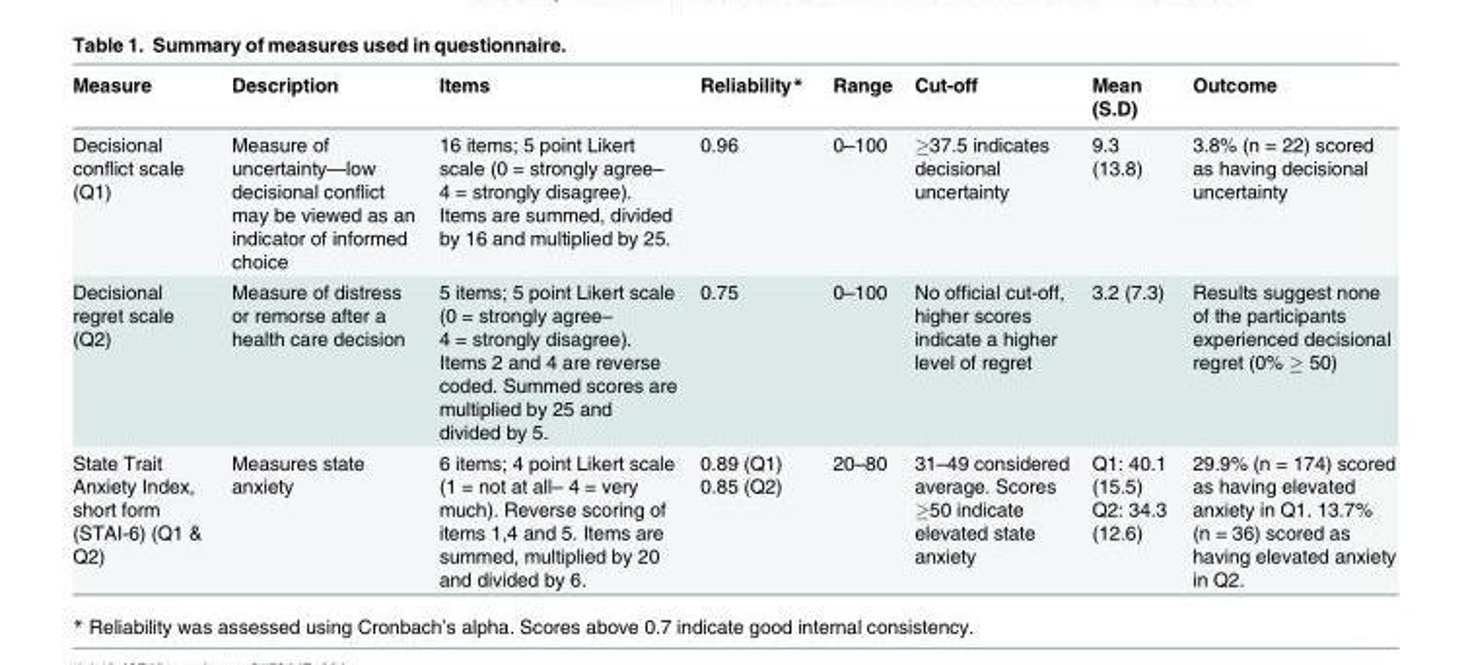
<table><thead><tr><td>Measure</td><td>Description</td><td>Items</td><td>Reliability*</td><td>Range</td><td>Cut-off</td><td>Mean (S.D)</td><td>Outcome</td></tr></thead><tbody><tr><td>Decisional conflict scale (Q1)</td><td>Measure of uncertainty—low decisional conflict may be viewed as an indicator of informed choice</td><td>16 items; 5 point Likert scale (0 = strongly agree– 4 = strongly disagree). Items are summed, divided by 16 and multiplied by 25.</td><td>0.96</td><td>0–100</td><td>≥37.5 indicates decisional uncertainty</td><td>9.3 (13.8)</td><td>3.8% (n = 22) scored as having decisional uncertainty</td></tr><tr><td>Decisional regret scale (Q2)</td><td>Measure of distress or remorse after a health care decision</td><td>5 items; 5 point Likert scale (0 = strongly agree– 4 = strongly disagree). Items 2 and 4 are reverse coded. Summed scores are multiplied by 25 and divided by 5.</td><td>0.75</td><td>0–100</td><td>No official cut-off, higher scores indicate a higher level of regret</td><td>3.2 (7.3)</td><td>Results suggest none of the participants experienced decisional regret (0% ≥ 50)</td></tr><tr><td>State Trait Anxiety Index, short form (STAI-6) (Q1 &amp; Q2)</td><td>Measures state anxiety</td><td>6 items; 4 point Likert scale (1 = not at all– 4 = very much). Reverse scoring of items 1,4 and 5. Items are summed, multiplied by 20 and divided by 6.</td><td>0.89 (Q1) 0.85 (Q2)</td><td>20–80</td><td>31–49 considered average. Scores ≥50 indicate elevated state anxiety</td><td>Q1: 40.1 (15.5) Q2: 34.3 (12.6)</td><td>29.9% (n = 174) scored as having elevated anxiety in Q1. 13.7% (n = 36) scored as having elevated anxiety in Q2.</td></tr></tbody></table>